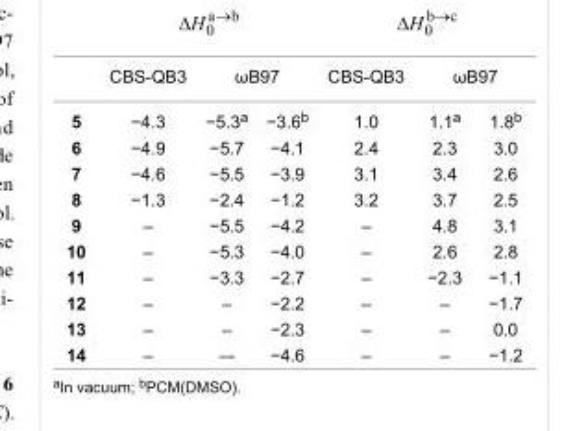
<table><thead><tr><td rowspan="2">5</td><td rowspan="2">CBS-QB3 −4.3</td><td colspan="2">ωB97</td><td rowspan="2">CBS-QB3 1.0</td><td colspan="2">ωB97</td></tr><tr><td>−5.3<sup>a</sup></td><td>−3.6<sup>b</sup></td><td>1.1<sup>a</sup></td><td>1.8<sup>b</sup></td></tr></thead><tbody><tr><td>6</td><td>−4.9</td><td>−5.7</td><td>−4.1</td><td>2.4</td><td>2.3</td><td>3.0</td></tr><tr><td>7</td><td>−4.6</td><td>−5.5</td><td>−3.9</td><td>3.1</td><td>3.4</td><td>2.6</td></tr><tr><td>8</td><td>−1.3</td><td>−2.4</td><td>−1.2</td><td>3.2</td><td>3.7</td><td>2.5</td></tr><tr><td>9</td><td>–</td><td>−5.5</td><td>−4.2</td><td>–</td><td>4.8</td><td>3.1</td></tr><tr><td>10</td><td>–</td><td>−5.3</td><td>−4.0</td><td>–</td><td>2.6</td><td>2.8</td></tr><tr><td>11</td><td>–</td><td>−3.3</td><td>−2.7</td><td>–</td><td>−2.3</td><td>−1.1</td></tr><tr><td>12</td><td>–</td><td>–</td><td>−2.2</td><td>–</td><td>–</td><td>−1.7</td></tr><tr><td>13</td><td>–</td><td>–</td><td>−2.3</td><td>–</td><td>–</td><td>0.0</td></tr><tr><td>14</td><td>–</td><td>–-</td><td>−4.6</td><td>–</td><td>–</td><td>−1.2</td></tr></tbody></table>